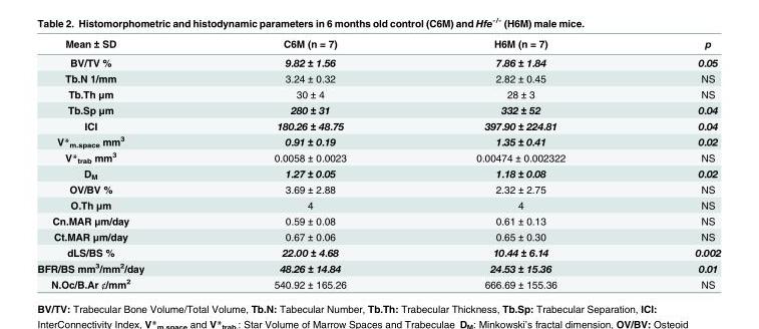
<table><thead><tr><td>Mean ± SD</td><td>C6M (n = 7)</td><td>H6M (n = 7)</td><td>p</td></tr></thead><tbody><tr><td>BV/TV %</td><td>9.82 ± 1.56</td><td>7.86 ± 1.84</td><td>0.05</td></tr><tr><td>Tb.N 1/mm</td><td>3.24 ± 0.32</td><td>2.82 ± 0.45</td><td>NS</td></tr><tr><td>Tb.Th μm</td><td>30 ± 4</td><td>28 ± 3</td><td>NS</td></tr><tr><td>Tb.Sp μm</td><td>280 ± 31</td><td>332 ± 52</td><td>0.04</td></tr><tr><td>ICI</td><td>180.26 ± 48.75</td><td>397.90 ± 224.81</td><td>0.04</td></tr><tr><td>V*<sub>m.space</sub> mm<sup>3</sup></td><td>0.91 ± 0.19</td><td>1.35 ± 0.41</td><td>0.02</td></tr><tr><td>V*<sub>trab</sub> mm<sup>3</sup></td><td>0.0058 ± 0.0023</td><td>0.00474 ± 0.002322</td><td>NS</td></tr><tr><td>D<sub>M</sub></td><td>1.27 ± 0.05</td><td>1.18 ± 0.08</td><td>0.02</td></tr><tr><td>OV/BV %</td><td>3.69 ± 2.88</td><td>2.32 ± 2.75</td><td>NS</td></tr><tr><td>O.Th μm</td><td>4</td><td>4</td><td>NS</td></tr><tr><td>Cn.MAR μm/day</td><td>0.59 ± 0.08</td><td>0.61 ± 0.13</td><td>NS</td></tr><tr><td>Ct.MAR μm/day</td><td>0.67 ± 0.06</td><td>0.65 ± 0.30</td><td>NS</td></tr><tr><td>dLS/BS %</td><td>22.00 ± 4.68</td><td>10.44 ± 6.14</td><td>0.002</td></tr><tr><td>BFR/BS mm<sup>3</sup>/mm<sup>2</sup>/day</td><td>48.26 ± 14.84</td><td>24.53 ± 15.36</td><td>0.01</td></tr><tr><td>N.Oc/B.Ar ȼ/mm<sup>2</sup></td><td>540.92 ± 165.26</td><td>666.69 ± 155.36</td><td>NS</td></tr></tbody></table>